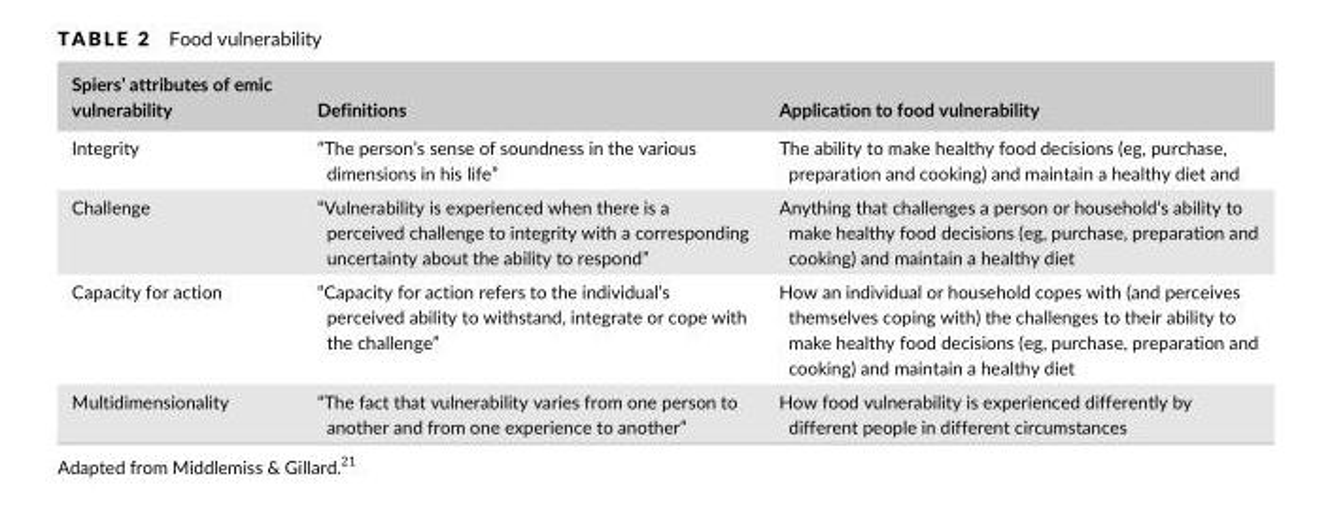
<table><thead><tr><td>Spiers’ attributes of emic vulnerability</td><td>Definitions</td><td>Application to food vulnerability</td></tr></thead><tbody><tr><td>Integrity</td><td>“The person’s sense of soundness in the various dimensions in his life”</td><td>The ability to make healthy food decisions (eg, purchase, preparation and cooking) and maintain a healthy diet and</td></tr><tr><td>Challenge</td><td>“Vulnerability is experienced when there is a perceived challenge to integrity with a corresponding uncertainty about the ability to respond”</td><td>Anything that challenges a person or household’s ability to make healthy food decisions (eg, purchase, preparation and cooking) and maintain a healthy diet</td></tr><tr><td>Capacity for action</td><td>“Capacity for action refers to the individual’s perceived ability to withstand, integrate or cope with the challenge”</td><td>How an individual or household copes with (and perceives themselves coping with) the challenges to their ability to make healthy food decisions (eg, purchase, preparation and cooking) and maintain a healthy diet</td></tr><tr><td>Multidimensionality</td><td>“The fact that vulnerability varies from one person to another and from one experience to another”</td><td>How food vulnerability is experienced differently by different people in different circumstances</td></tr></tbody></table>